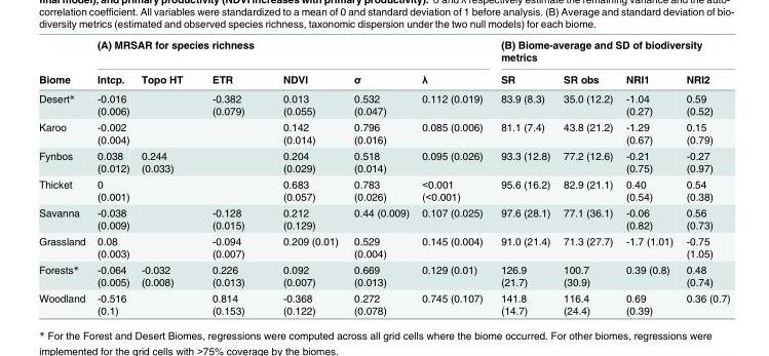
<table><thead><tr><td rowspan="2">Biome</td><td colspan="6">(A) MRSAR for species richness</td><td colspan="4">(B) Biome-average and SD of biodiversity metrics</td></tr><tr><td>Intcp.</td><td>Topo HT</td><td>ETR</td><td>NDVI</td><td>σ</td><td>λ</td><td>SR</td><td>SR obs</td><td>NRI1</td><td>NRI2</td></tr></thead><tbody><tr><td>Desert*</td><td>-0.016 (0.006)</td><td></td><td>-0.382 (0.079)</td><td>0.013 (0.055)</td><td>0.532 (0.047)</td><td>0.112 (0.019)</td><td>83.9 (8.3)</td><td>35.0 (12.2)</td><td>-1.04 (0.27)</td><td>0.59 (0.52)</td></tr><tr><td>Karoo</td><td>-0.002 (0.004)</td><td></td><td></td><td>0.142 (0.014)</td><td>0.796 (0.016)</td><td>0.085 (0.006)</td><td>81.1 (7.4)</td><td>43.8 (21.2)</td><td>-1.29 (0.67)</td><td>0.15 (0.79)</td></tr><tr><td>Fynbos</td><td>0.038 (0.012)</td><td>0.244 (0.033)</td><td></td><td>0.204 (0.029)</td><td>0.518 (0.014)</td><td>0.095 (0.026)</td><td>93.3 (12.8)</td><td>77.2 (12.6)</td><td>-0.21 (0.75)</td><td>-0.27 (0.97)</td></tr><tr><td>Thicket</td><td>0 (0.001)</td><td></td><td></td><td>0.683 (0.057)</td><td>0.783 (0.026)</td><td>&lt;0.001 (&lt;0.001)</td><td>95.6 (16.2)</td><td>82.9 (21.1)</td><td>0.40 (0.54)</td><td>0.54 (0.38)</td></tr><tr><td>Savanna</td><td>-0.038 (0.009)</td><td></td><td>-0.128 (0.015)</td><td>0.212 (0.129)</td><td>0.44 (0.009)</td><td>0.107 (0.025)</td><td>97.6 (28.1)</td><td>77.1 (36.1)</td><td>-0.06 (0.82)</td><td>0.56 (0.73)</td></tr><tr><td>Grassland</td><td>0.08 (0.003)</td><td></td><td>-0.094 (0.007)</td><td>0.209 (0.01)</td><td>0.529 (0.004)</td><td>0.145 (0.004)</td><td>91.0 (21.4)</td><td>71.3 (27.7)</td><td>-1.7 (1.01)</td><td>-0.75 (1.05)</td></tr><tr><td>Forests*</td><td>-0.064 (0.005)</td><td>-0.032 (0.008)</td><td>0.226 (0.013)</td><td>0.092 (0.007)</td><td>0.669 (0.013)</td><td>0.129 (0.01)</td><td>126.9 (21.7)</td><td>100.7 (30.9)</td><td>0.39 (0.8)</td><td>0.48 (0.74)</td></tr><tr><td>Woodland</td><td>-0.516 (0.1)</td><td></td><td>0.814 (0.153)</td><td>-0.368 (0.122)</td><td>0.272 (0.078)</td><td>0.745 (0.107)</td><td>141.8 (14.7)</td><td>116.4 (24.4)</td><td>0.69 (0.39)</td><td>0.36 (0.7)</td></tr></tbody></table>